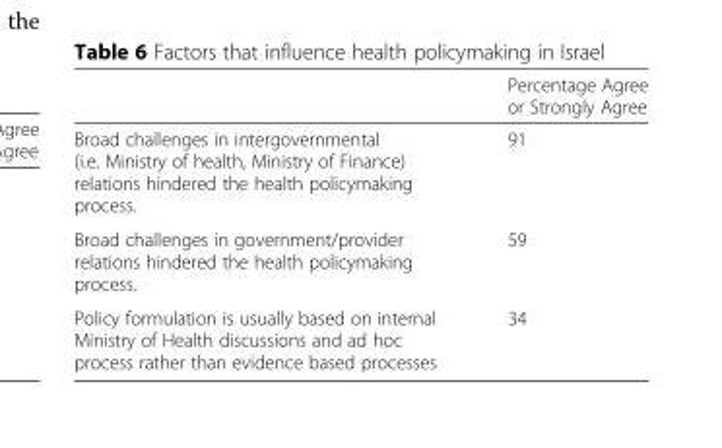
<table><thead><tr><td></td><td>Percentage Agree or Strongly Agree</td></tr></thead><tbody><tr><td>Broad challenges in intergovernmental (i.e. Ministry of health, Ministry of Finance) relations hindered the health policymaking process.</td><td>91</td></tr><tr><td>Broad challenges in government/provider relations hindered the health policymaking process.</td><td>59</td></tr><tr><td>Policy formulation is usually based on internal Ministry of Health discussions and ad hoc process rather than evidence based processes</td><td>34</td></tr></tbody></table>